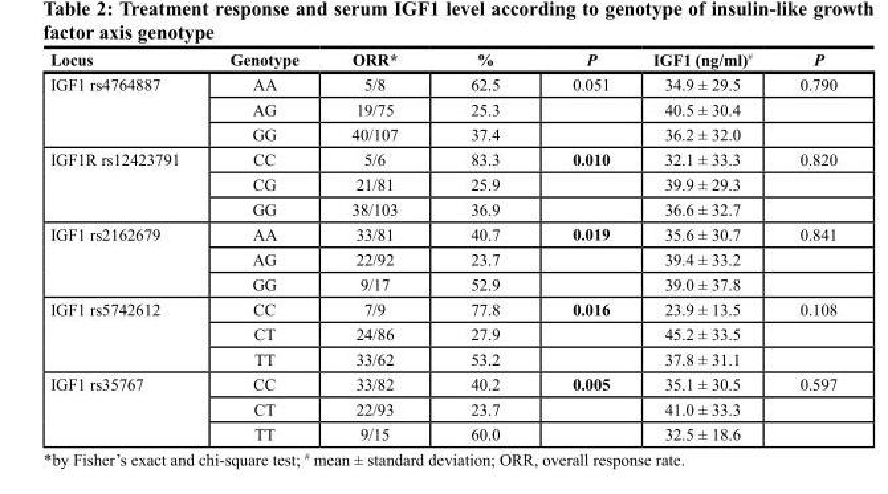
<table><thead><tr><td>Locus</td><td>Genotype</td><td>ORR*</td><td>%</td><td>P</td><td>IGF1 (ng/ml)<sup>#</sup></td><td>P</td></tr></thead><tbody><tr><td rowspan="3">IGF1 rs4764887</td><td>AA</td><td>5/8</td><td>62.5</td><td>0.051</td><td>34.9 ± 29.5</td><td>0.790</td></tr><tr><td>AG</td><td>19/75</td><td>25.3</td><td></td><td>40.5 ± 30.4</td><td></td></tr><tr><td>GG</td><td>40/107</td><td>37.4</td><td></td><td>36.2 ± 32.0</td><td></td></tr><tr><td rowspan="3">IGF1R rs12423791</td><td>CC</td><td>5/6</td><td>83.3</td><td>0.010</td><td>32.1 ± 33.3</td><td>0.820</td></tr><tr><td>CG</td><td>21/81</td><td>25.9</td><td></td><td>39.9 ± 29.3</td><td></td></tr><tr><td>GG</td><td>38/103</td><td>36.9</td><td></td><td>36.6 ± 32.7</td><td></td></tr><tr><td rowspan="3">IGF1 rs2162679</td><td>AA</td><td>33/81</td><td>40.7</td><td>0.019</td><td>35.6 ± 30.7</td><td>0.841</td></tr><tr><td>AG</td><td>22/92</td><td>23.7</td><td></td><td>39.4 ± 33.2</td><td></td></tr><tr><td>GG</td><td>9/17</td><td>52.9</td><td></td><td>39.0 ± 37.8</td><td></td></tr><tr><td rowspan="3">IGF1 rs5742612</td><td>CC</td><td>7/9</td><td>77.8</td><td>0.016</td><td>23.9 ± 13.5</td><td>0.108</td></tr><tr><td>CT</td><td>24/86</td><td>27.9</td><td></td><td>45.2 ± 33.5</td><td></td></tr><tr><td>TT</td><td>33/62</td><td>53.2</td><td></td><td>37.8 ± 31.1</td><td></td></tr><tr><td rowspan="3">IGF1 rs35767</td><td>CC</td><td>33/82</td><td>40.2</td><td>0.005</td><td>35.1 ± 30.5</td><td>0.597</td></tr><tr><td>CT</td><td>22/93</td><td>23.7</td><td></td><td>41.0 ± 33.3</td><td></td></tr><tr><td>TT</td><td>9/15</td><td>60.0</td><td></td><td>32.5 ± 18.6</td><td></td></tr></tbody></table>